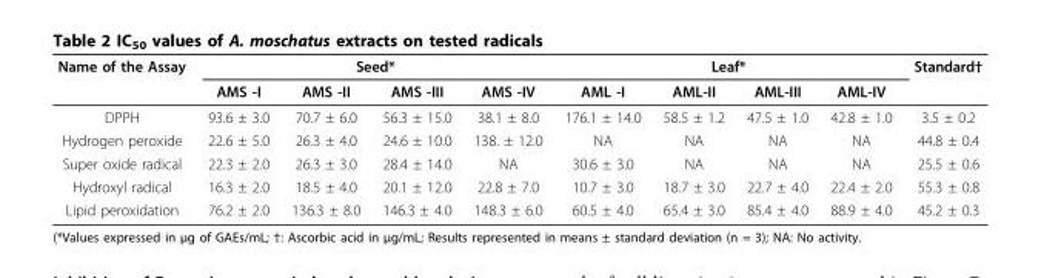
<table><thead><tr><td rowspan="2">Name of the Assay</td><td colspan="4">Seed*</td><td colspan="4">Leaf*</td><td rowspan="2">Standard†</td></tr><tr><td>AMS -I</td><td>AMS -II</td><td>AMS -III</td><td>AMS -IV</td><td>AML -I</td><td>AML-II</td><td>AML-III</td><td>AML-IV</td></tr></thead><tbody><tr><td>DPPH</td><td>93.6 ± 3.0</td><td>70.7 ± 6.0</td><td>56.3 ± 15.0</td><td>38.1 ± 8.0</td><td>176.1 ± 14.0</td><td>58.5 ± 1.2</td><td>47.5 ± 1.0</td><td>42.8 ± 1.0</td><td>3.5 ± 0.2</td></tr><tr><td>Hydrogen peroxide</td><td>22.6 ± 5.0</td><td>26.3 ± 4.0</td><td>24.6 ± 10.0</td><td>138. ± 12.0</td><td>NA</td><td>NA</td><td>NA</td><td>NA</td><td>44.8 ± 0.4</td></tr><tr><td>Super oxide radical</td><td>22.3 ± 2.0</td><td>26.3 ± 3.0</td><td>28.4 ± 14.0</td><td>NA</td><td>30.6 ± 3.0</td><td>NA</td><td>NA</td><td>NA</td><td>25.5 ± 0.6</td></tr><tr><td>Hydroxyl radical</td><td>16.3 ± 2.0</td><td>18.5 ± 4.0</td><td>20.1 ± 12.0</td><td>22.8 ± 7.0</td><td>10.7 ± 3.0</td><td>18.7 ± 3.0</td><td>22.7 ± 4.0</td><td>22.4 ± 2.0</td><td>55.3 ± 0.8</td></tr><tr><td>Lipid peroxidation</td><td>76.2 ± 2.0</td><td>136.3 ± 8.0</td><td>146.3 ± 4.0</td><td>148.3 ± 6.0</td><td>60.5 ± 4.0</td><td>65.4 ± 3.0</td><td>85.4 ± 4.0</td><td>88.9 ± 4.0</td><td>45.2 ± 0.3</td></tr></tbody></table>